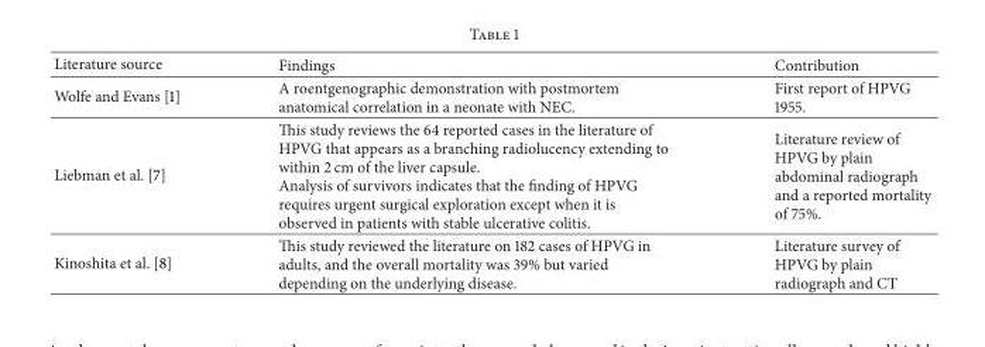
<table><thead><tr><td>Literature source</td><td>Findings</td><td>Contribution</td></tr></thead><tbody><tr><td>Wolfe and Evans [1]</td><td>A roentgenographic demonstration with postmortem anatomical correlation in a neonate with NEC.</td><td>First report of HPVG 1955.</td></tr><tr><td>Liebman et al. [7]</td><td>This study reviews the 64 reported cases in the literature of HPVG that appears as a branching radiolucency extending to within 2 cm of the liver capsule. Analysis of survivors indicates that the finding of HPVG requires urgent surgical exploration except when it is observed in patients with stable ulcerative colitis.</td><td>Literature review of HPVG by plain abdominal radiograph and a reported mortality of 75%.</td></tr><tr><td>Kinoshita et al. [8]</td><td>This study reviewed the literature on 182 cases of HPVG in adults, and the overall mortality was 39% but varied depending on the underlying disease.</td><td>Literature survey of HPVG by plain radiograph and CT</td></tr></tbody></table>